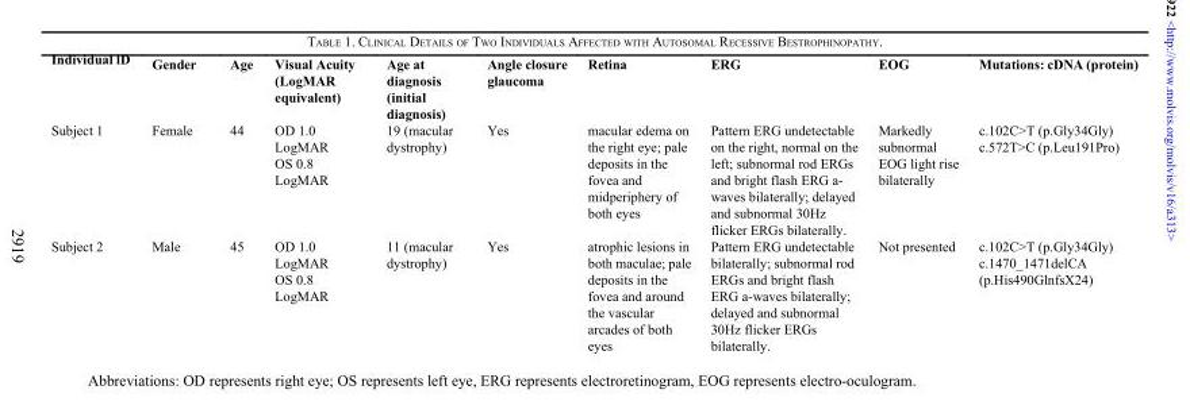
<table><thead><tr><td>Individual lD</td><td>Gender</td><td>Age</td><td>Visual Acuity (LogMAR equivalent)</td><td>Age at diagnosis (initial diagnosis)</td><td>Angle closure glaucoma</td><td>Retina</td><td>ERG</td><td>EOG</td><td>Mutations: cDNA (protein)</td></tr></thead><tbody><tr><td>Subject 1</td><td>Female</td><td>44</td><td>OD 1.0 LogMAR OS 0.8 LogMAR</td><td>19 (macular dystrophy)</td><td>Yes</td><td>macular edema on the right eye; pale deposits in the fovea and midperiphery of both eyes</td><td>Pattern ERG undetectable on the right, normal on the left; subnormal rod ERGs and bright flash ERG a- waves bilaterally; delayed and subnormal 30Hz flicker ERGs bilaterally.</td><td>Markedly subnormal EOG light rise bilaterally</td><td>c.102C&gt;T (p.Gly34Gly) c.572T&gt;C (p.Leu191Pro)</td></tr><tr><td>Subject 2</td><td>Male</td><td>45</td><td>OD 1.0 LogMAR OS 0.8 LogMAR</td><td>11 (macular dystrophy)</td><td>Yes</td><td>atrophic lesions in both maculae; pale deposits in the fovea and around the vascular arcades of both eyes</td><td>Pattern ERG undetectable bilaterally; subnormal rod ERGs and bright flash ERG a-waves bilaterally; delayed and subnormal 30Hz flicker ERGs bilaterally.</td><td>Not presented</td><td>c.102C&gt;T (p.Gly34Gly) c.1470_1471delCA (p.His490GlnfsX24)</td></tr></tbody></table>